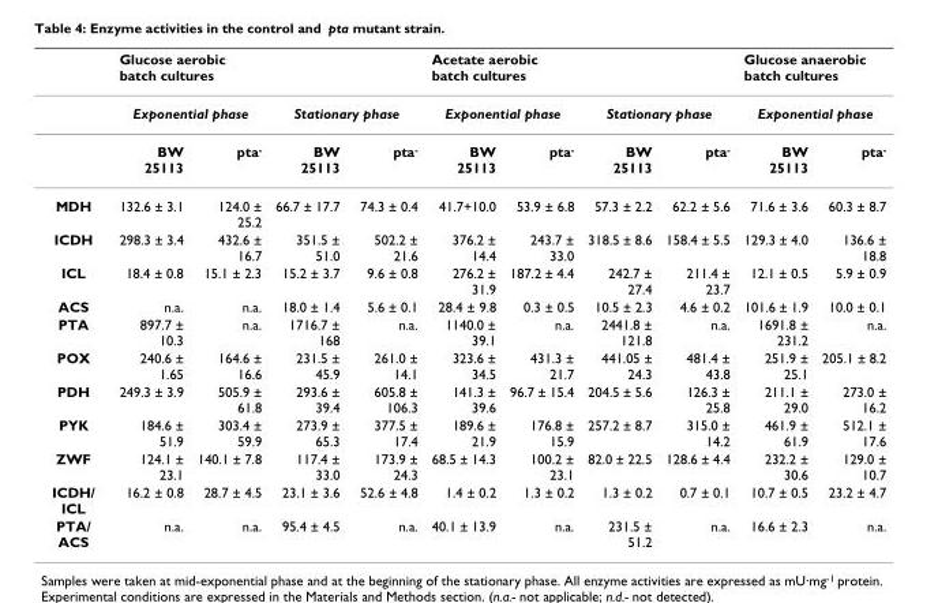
<table><thead><tr><td rowspan="3"></td><td rowspan="2" colspan="2">Glucose aerobic batch cultures Exponential phase</td><td></td><td></td><td rowspan="2" colspan="2">Acetate aerobic batch cultures Exponential phase</td><td></td><td></td><td rowspan="2" colspan="2">Glucose anaerobic batch cultures Exponential phase</td></tr><tr><td colspan="2">Stationary phase</td><td colspan="2">Stationary phase</td></tr><tr><td>BW 25113</td><td>pta<sup>-</sup></td><td>BW 25113</td><td>pta<sup>-</sup></td><td>BW 25113</td><td>pta<sup>-</sup></td><td>BW 25113</td><td>pta<sup>-</sup></td><td>BW 25113</td><td>pta<sup>-</sup></td></tr></thead><tbody><tr><td>MDH</td><td>132.6 ± 3.1</td><td>124.0 ± 25.2</td><td>66.7 ± 17.7</td><td>74.3 ± 0.4</td><td>41.7+10.0</td><td>53.9 ± 6.8</td><td>57.3 ± 2.2</td><td>62.2 ± 5.6</td><td>71.6 ± 3.6</td><td>60.3 ± 8.7</td></tr><tr><td>ICDH</td><td>298.3 ± 3.4</td><td>432.6 ± 16.7</td><td>351.5 ± 51.0</td><td>502.2 ± 21.6</td><td>376.2 ± 14.4</td><td>243.7 ± 33.0</td><td>318.5 ± 8.6</td><td>158.4 ± 5.5</td><td>129.3 ± 4.0</td><td>136.6 ± 18.8</td></tr><tr><td>ICL</td><td>18.4 ± 0.8</td><td>15.1 ± 2.3</td><td>15.2 ± 3.7</td><td>9.6 ± 0.8</td><td>276.2 ± 31.9</td><td>187.2 ± 4.4</td><td>242.7 ± 27.4</td><td>211.4 ± 23.7</td><td>12.1 ± 0.5</td><td>5.9 ± 0.9</td></tr><tr><td>ACS</td><td>n.a.</td><td>n.a.</td><td>18.0 ± 1.4</td><td>5.6 ± 0.1</td><td>28.4 ± 9.8</td><td>0.3 ± 0.5</td><td>10.5 ± 2.3</td><td>4.6 ± 0.2</td><td>101.6 ± 1.9</td><td>10.0 ± 0.1</td></tr><tr><td>PTA</td><td>897.7 ± 10.3</td><td>n.a.</td><td>1716.7 ± 168</td><td>n.a.</td><td>1140.0 ± 39.1</td><td>n.a.</td><td>2441.8 ± 121.8</td><td>n.a.</td><td>1691.8 ± 231.2</td><td>n.a.</td></tr><tr><td>POX</td><td>240.6 ± 1.65</td><td>164.6 ± 16.6</td><td>231.5 ± 45.9</td><td>261.0 ± 14.1</td><td>323.6 ± 34.5</td><td>431.3 ± 21.7</td><td>441.05 ± 24.3</td><td>481.4 ± 43.8</td><td>251.9 ± 25.1</td><td>205.1 ± 8.2</td></tr><tr><td>PDH</td><td>249.3 ± 3.9</td><td>505.9 ± 61.8</td><td>293.6 ± 39.4</td><td>605.8 ± 106.3</td><td>141.3 ± 39.6</td><td>96.7 ± 15.4</td><td>204.5 ± 5.6</td><td>126.3 ± 25.8</td><td>211.1 ± 29.0</td><td>273.0 ± 16.2</td></tr><tr><td>PYK</td><td>184.6 ± 51.9</td><td>303.4 ± 59.9</td><td>273.9 ± 65.3</td><td>377.5 ± 17.4</td><td>189.6 ± 21.9</td><td>176.8 ± 15.9</td><td>257.2 ± 8.7</td><td>315.0 ± 14.2</td><td>461.9 ± 61.9</td><td>512.1 ± 17.6</td></tr><tr><td>ZWF</td><td>124.1 ± 23.1</td><td>140.1 ± 7.8</td><td>117.4 ± 33.0</td><td>173.9 ± 24.3</td><td>68.5 ± 14.3</td><td>100.2 ± 23.1</td><td>82.0 ± 22.5</td><td>128.6 ± 4.4</td><td>232.2 ± 30.6</td><td>129.0 ± 10.7</td></tr><tr><td>ICDH/ ICL</td><td>16.2 ± 0.8</td><td>28.7 ± 4.5</td><td>23.1 ± 3.6</td><td>52.6 ± 4.8</td><td>1.4 ± 0.2</td><td>1.3 ± 0.2</td><td>1.3 ± 0.2</td><td>0.7 ± 0.1</td><td>10.7 ± 0.5</td><td>23.2 ± 4.7</td></tr><tr><td>PTA/ ACS</td><td>n.a.</td><td>n.a.</td><td>95.4 ± 4.5</td><td>n.a.</td><td>40.1 ± 13.9</td><td>n.a.</td><td>231.5 ± 51.2</td><td>n.a.</td><td>16.6 ± 2.3</td><td>n.a.</td></tr></tbody></table>